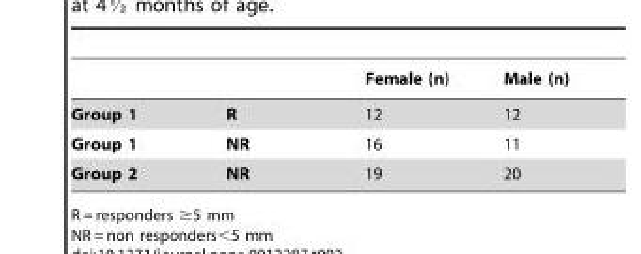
<table><thead><tr><td></td><td></td><td>Female (n)</td><td>Male (n)</td></tr></thead><tbody><tr><td>Group 1</td><td>R</td><td>12</td><td>12</td></tr><tr><td>Group 1</td><td>NR</td><td>16</td><td>11</td></tr><tr><td>Group 2</td><td>NR</td><td>19</td><td>20</td></tr></tbody></table>